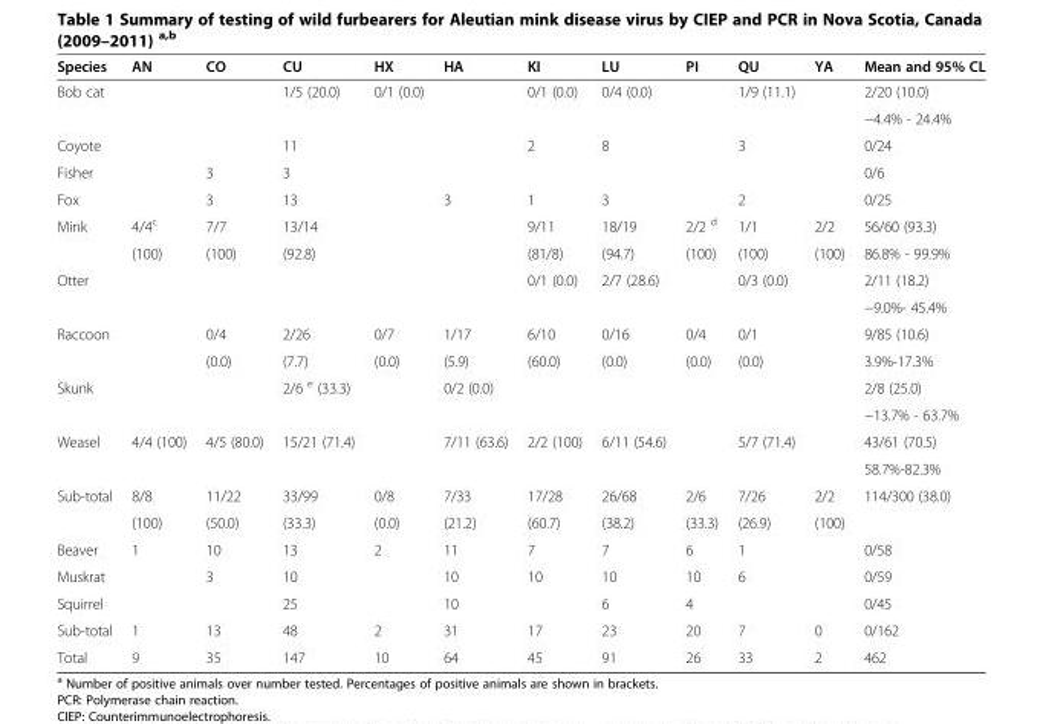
<table><thead><tr><td>Species</td><td>AN</td><td>CO</td><td>CU</td><td>HX</td><td>HA</td><td>KI</td><td>LU</td><td>PI</td><td>QU</td><td>YA</td><td>Mean and 95% CL</td></tr></thead><tbody><tr><td rowspan="2">Bob cat</td><td rowspan="2"></td><td rowspan="2"></td><td rowspan="2">1/5 (20.0)</td><td rowspan="2">0/1 (0.0)</td><td rowspan="2"></td><td rowspan="2">0/1 (0.0)</td><td rowspan="2">0/4 (0.0)</td><td rowspan="2"></td><td rowspan="2">1/9 (11.1)</td><td rowspan="2"></td><td>2/20 (10.0)</td></tr><tr><td>−4.4% - 24.4%</td></tr><tr><td>Coyote</td><td></td><td></td><td>11</td><td></td><td></td><td>2</td><td>8</td><td></td><td>3</td><td></td><td>0/24</td></tr><tr><td>Fisher</td><td></td><td>3</td><td>3</td><td></td><td></td><td></td><td></td><td></td><td></td><td></td><td>0/6</td></tr><tr><td>Fox</td><td></td><td>3</td><td>13</td><td></td><td>3</td><td>1</td><td>3</td><td></td><td>2</td><td></td><td>0/25</td></tr><tr><td rowspan="2">Mink</td><td>4/4<sup>c</sup></td><td>7/7</td><td>13/14</td><td></td><td></td><td>9/11</td><td>18/19</td><td>2/2 <sup>d</sup></td><td>1/1</td><td>2/2</td><td>56/60 (93.3)</td></tr><tr><td>(100)</td><td>(100)</td><td>(92.8)</td><td></td><td></td><td>(81/8)</td><td>(94.7)</td><td>(100)</td><td>(100)</td><td>(100)</td><td>86.8% - 99.9%</td></tr><tr><td rowspan="2">Otter</td><td rowspan="2"></td><td rowspan="2"></td><td rowspan="2"></td><td rowspan="2"></td><td rowspan="2"></td><td rowspan="2">0/1 (0.0)</td><td rowspan="2">2/7 (28.6)</td><td rowspan="2"></td><td rowspan="2">0/3 (0.0)</td><td rowspan="2"></td><td>2/11 (18.2)</td></tr><tr><td>−9.0%- 45.4%</td></tr><tr><td rowspan="2">Raccoon</td><td rowspan="2"></td><td>0/4</td><td>2/26</td><td>0/7</td><td>1/17</td><td>6/10</td><td>0/16</td><td>0/4</td><td>0/1</td><td></td><td>9/85 (10.6)</td></tr><tr><td>(0.0)</td><td>(7.7)</td><td>(0.0)</td><td>(5.9)</td><td>(60.0)</td><td>(0.0)</td><td>(0.0)</td><td>(0.0)</td><td></td><td>3.9%-17.3%</td></tr><tr><td rowspan="2">Skunk</td><td rowspan="2"></td><td rowspan="2"></td><td rowspan="2">2/6 <sup>e</sup> (33.3)</td><td rowspan="2"></td><td rowspan="2">0/2 (0.0)</td><td rowspan="2"></td><td rowspan="2"></td><td rowspan="2"></td><td rowspan="2"></td><td rowspan="2"></td><td>2/8 (25.0)</td></tr><tr><td>−13.7% - 63.7%</td></tr><tr><td rowspan="2">Weasel</td><td rowspan="2">4/4 (100)</td><td rowspan="2">4/5 (80.0)</td><td rowspan="2">15/21 (71.4)</td><td rowspan="2"></td><td rowspan="2">7/11 (63.6)</td><td rowspan="2">2/2 (100)</td><td rowspan="2">6/11 (54.6)</td><td rowspan="2"></td><td rowspan="2">5/7 (71.4)</td><td rowspan="2"></td><td>43/61 (70.5)</td></tr><tr><td>58.7%-82.3%</td></tr><tr><td rowspan="2">Sub-total</td><td>8/8</td><td>11/22</td><td>33/99</td><td>0/8</td><td>7/33</td><td>17/28</td><td>26/68</td><td>2/6</td><td>7/26</td><td>2/2</td><td>114/300 (38.0)</td></tr><tr><td>(100)</td><td>(50.0)</td><td>(33.3)</td><td>(0.0)</td><td>(21.2)</td><td>(60.7)</td><td>(38.2)</td><td>(33.3)</td><td>(26.9)</td><td>(100)</td><td></td></tr><tr><td>Beaver</td><td>1</td><td>10</td><td>13</td><td>2</td><td>11</td><td>7</td><td>7</td><td>6</td><td>1</td><td></td><td>0/58</td></tr><tr><td>Muskrat</td><td></td><td>3</td><td>10</td><td></td><td>10</td><td>10</td><td>10</td><td>10</td><td>6</td><td></td><td>0/59</td></tr><tr><td>Squirrel</td><td></td><td></td><td>25</td><td></td><td>10</td><td></td><td>6</td><td>4</td><td></td><td></td><td>0/45</td></tr><tr><td>Sub-total</td><td>1</td><td>13</td><td>48</td><td>2</td><td>31</td><td>17</td><td>23</td><td>20</td><td>7</td><td>0</td><td>0/162</td></tr><tr><td>Total</td><td>9</td><td>35</td><td>147</td><td>10</td><td>64</td><td>45</td><td>91</td><td>26</td><td>33</td><td>2</td><td>462</td></tr></tbody></table>